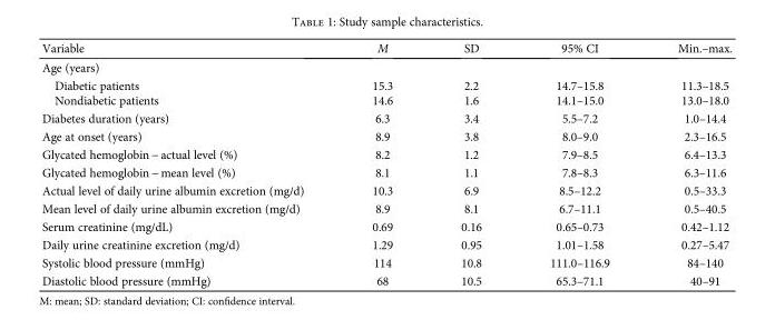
<table><thead><tr><td>Variable</td><td>M</td><td>SD</td><td>95% CI</td><td>Min.–max.</td></tr></thead><tbody><tr><td colspan="5">Age (years)</td></tr><tr><td>Diabetic patients Nondiabetic patients</td><td>15.3 14.6</td><td>2.2 1.6</td><td>14.7–15.8 14.1–15.0</td><td>11.3–18.5 13.0–18.0</td></tr><tr><td>Diabetes duration (years)</td><td>6.3</td><td>3.4</td><td>5.5–7.2</td><td>1.0–14.4</td></tr><tr><td>Age at onset (years)</td><td>8.9</td><td>3.8</td><td>8.0–9.0</td><td>2.3–16.5</td></tr><tr><td>Glycated hemoglobin − actual level (%)</td><td>8.2</td><td>1.2</td><td>7.9–8.5</td><td>6.4–13.3</td></tr><tr><td>Glycated hemoglobin − mean level (%)</td><td>8.1</td><td>1.1</td><td>7.8–8.3</td><td>6.3–11.6</td></tr><tr><td>Actual level of daily urine albumin excretion (mg/d)</td><td>10.3</td><td>6.9</td><td>8.5–12.2</td><td>0.5–33.3</td></tr><tr><td>Mean level of daily urine albumin excretion (mg/d)</td><td>8.9</td><td>8.1</td><td>6.7–11.1</td><td>0.5–40.5</td></tr><tr><td>Serum creatinine (mg/dL)</td><td>0.69</td><td>0.16</td><td>0.65–0.73</td><td>0.42–1.12</td></tr><tr><td>Daily urine creatinine excretion (mg/d)</td><td>1.29</td><td>0.95</td><td>1.01–1.58</td><td>0.27–5.47</td></tr><tr><td>Systolic blood pressure (mmHg)</td><td>114</td><td>10.8</td><td>111.0–116.9</td><td>84–140</td></tr><tr><td>Diastolic blood pressure (mmHg)</td><td>68</td><td>10.5</td><td>65.3–71.1</td><td>40–91</td></tr></tbody></table>